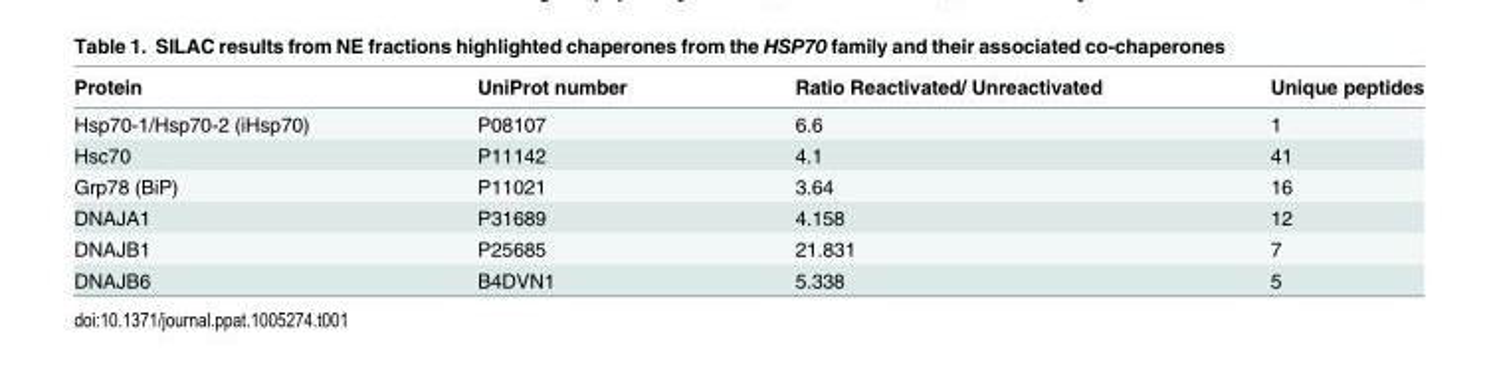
<table><thead><tr><td>Protein</td><td>UniProt number</td><td>Ratio Reactivated/ Unreactivated</td><td>Unique peptides</td></tr></thead><tbody><tr><td>Hsp70-1/Hsp70-2 (iHsp70)</td><td>P08107</td><td>6.6</td><td>1</td></tr><tr><td>Hsc70</td><td>P11142</td><td>4.1</td><td>41</td></tr><tr><td>Grp78 (BiP)</td><td>P11021</td><td>3.64</td><td>16</td></tr><tr><td>DNAJA1</td><td>P31689</td><td>4.158</td><td>12</td></tr><tr><td>DNAJB1</td><td>P25685</td><td>21.831</td><td>7</td></tr><tr><td>DNAJB6</td><td>B4DVN1</td><td>5.338</td><td>5</td></tr></tbody></table>